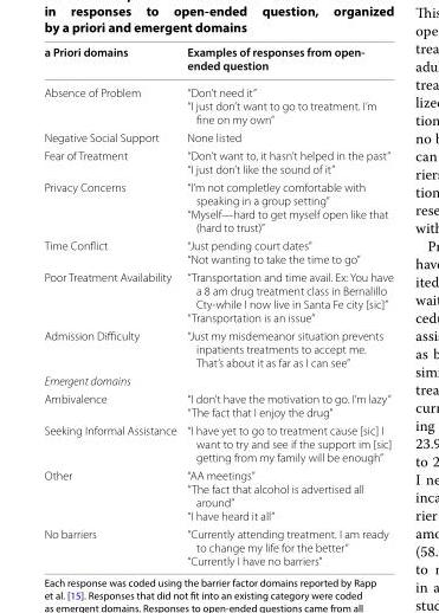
<table><thead><tr><td>a Priori domains</td><td>Examples of responses from open‑ ended question</td></tr></thead><tbody><tr><td>Absence of Problem</td><td>“Don’t need it” “I just don’t want to go to treatment. I’m fine on my own”</td></tr><tr><td>Negative Social Support</td><td>None listed</td></tr><tr><td>Fear of Treatment</td><td>“Don’t want to, it hasn’t helped in the past” “I just don’t like the sound of it”</td></tr><tr><td>Privacy Concerns</td><td>“I’m not completley comfortable with speaking in a group setting” “Myself—hard to get myself open like that (hard to trust)”</td></tr><tr><td>Time Conflict</td><td>“Just pending court dates” “Not wanting to take the time to go”</td></tr><tr><td>Poor Treatment Availability</td><td>“Transportation and time avail. Ex: You have a 8 am drug treatment class in Bernalillo Cty-while I now live in Santa Fe city [sic]” “Transportation is an issue”</td></tr><tr><td>Admission Difficulty</td><td>“Just my misdemeanor situation prevents inpatients treatments to accept me. That’s about it as far as I can see”</td></tr><tr><td colspan="2">Emergent domains</td></tr><tr><td>Ambivalence</td><td>“I don’t have the motivation to go. I’m lazy” “The fact that I enjoy the drug”</td></tr><tr><td>Seeking Informal Assistance</td><td>“I have yet to go to treatment cause [sic] I want to try and see if the support im [sic] getting from my family will be enough”</td></tr><tr><td>Other</td><td>“AA meetings” “The fact that alcohol is advertised all around” “I have heard it all”</td></tr><tr><td>No barriers</td><td>“Currently attending treatment. I am ready to change my life for the better” “Currently I have no barriers”</td></tr></tbody></table>